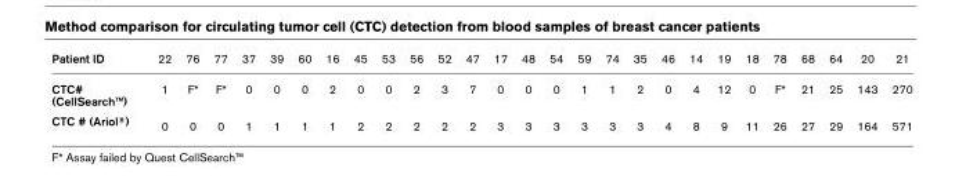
<table><thead><tr><td>Patient ID</td><td>22</td><td>76</td><td>77</td><td>37</td><td>39</td><td>60</td><td>16</td><td>45</td><td>53</td><td>56</td><td>52</td><td>47</td><td>17</td><td>48</td><td>54</td><td>59</td><td>74</td><td>35</td><td>46</td><td>14</td><td>19</td><td>18</td><td>78</td><td>68</td><td>64</td><td>20</td><td>21</td></tr></thead><tbody><tr><td>CTC# (CellSearch™)</td><td>1</td><td>F*</td><td>F*</td><td>0</td><td>0</td><td>0</td><td>2</td><td>0</td><td>0</td><td>2</td><td>3</td><td>7</td><td>0</td><td>0</td><td>0</td><td>1</td><td>1</td><td>2</td><td>0</td><td>4</td><td>12</td><td>0</td><td>F*</td><td>21</td><td>25</td><td>143</td><td>270</td></tr><tr><td>CTC # (Ariol<sup>®</sup>)</td><td>0</td><td>0</td><td>0</td><td>1</td><td>1</td><td>1</td><td>1</td><td>2</td><td>2</td><td>2</td><td>2</td><td>2</td><td>3</td><td>3</td><td>3</td><td>3</td><td>3</td><td>3</td><td>4</td><td>8</td><td>9</td><td>11</td><td>26</td><td>27</td><td>29</td><td>164</td><td>571</td></tr></tbody></table>